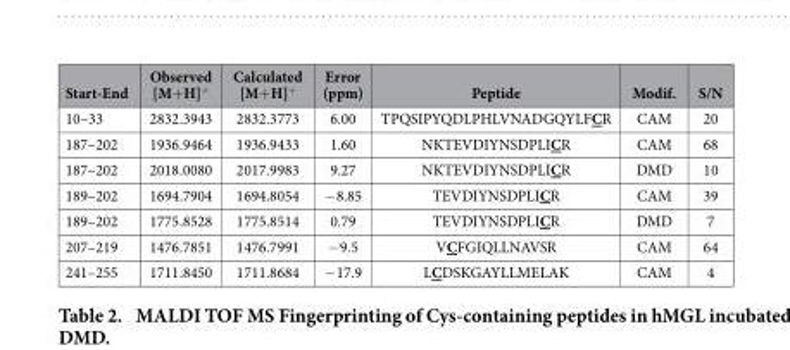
<table><thead><tr><td>Start-End</td><td>Observed [M+ H]<sup>+</sup></td><td>Calculated [M+ H]<sup>+</sup></td><td>Error (ppm)</td><td>Peptide</td><td>Modif.</td><td>S/N</td></tr></thead><tbody><tr><td>10–33</td><td>2832.3943</td><td>2832.3773</td><td>6.00</td><td>TPQSIPYQDLPHLVNADGQYLFCR</td><td>CAM</td><td>20</td></tr><tr><td>187–202</td><td>1936.9464</td><td>1936.9433</td><td>1.60</td><td>NKTEVDIYNSDPLICR</td><td>CAM</td><td>68</td></tr><tr><td>187–202</td><td>2018.0080</td><td>2017.9983</td><td>9.27</td><td>NKTEVDIYNSDPLICR</td><td>DMD</td><td>10</td></tr><tr><td>189–202</td><td>1694.7904</td><td>1694.8054</td><td>− 8.85</td><td>TEVDIYNSDPLICR</td><td>CAM</td><td>39</td></tr><tr><td>189–202</td><td>1775.8528</td><td>1775.8514</td><td>0.79</td><td>TEVDIYNSDPLICR</td><td>DMD</td><td>7</td></tr><tr><td>207–219</td><td>1476.7851</td><td>1476.7991</td><td>− 9.5</td><td>VCFGIQLLNAVSR</td><td>CAM</td><td>64</td></tr><tr><td>241–255</td><td>1711.8450</td><td>1711.8684</td><td>− 17.9</td><td>LCDSKGAYLLMELAK</td><td>CAM</td><td>4</td></tr></tbody></table>